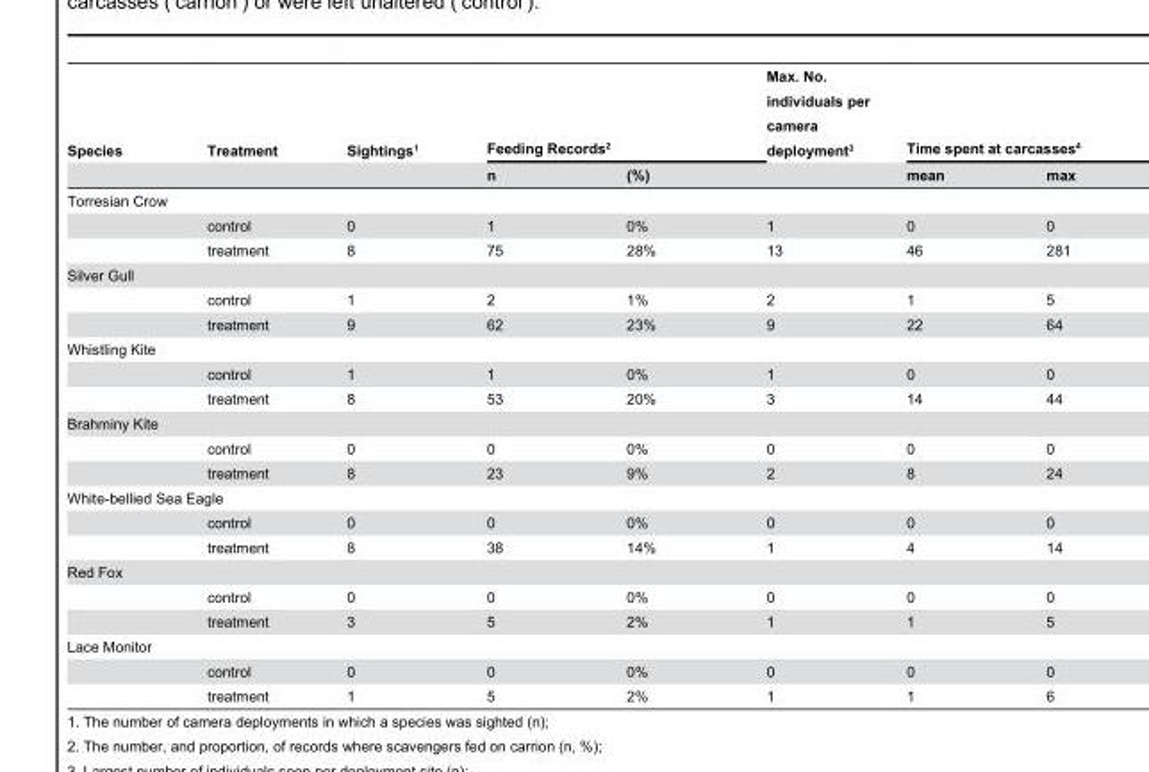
<table><thead><tr><td rowspan="2">Species</td><td rowspan="2">Treatment</td><td rowspan="2">Sightings<sup>1</sup></td><td colspan="2">Feeding Records<sup>2</sup></td><td rowspan="2">Max. No. individuals per camera deployment<sup>3</sup></td><td colspan="2">Time spent at carcasses<sup>4</sup></td></tr><tr><td>n</td><td>(%)</td><td>mean</td><td>max</td></tr></thead><tbody><tr><td colspan="8">Torresian Crow</td></tr><tr><td></td><td>control</td><td>0</td><td>1</td><td>0%</td><td>1</td><td>0</td><td>0</td></tr><tr><td></td><td>treatment</td><td>8</td><td>75</td><td>28%</td><td>13</td><td>46</td><td>281</td></tr><tr><td colspan="8">Silver Gull</td></tr><tr><td></td><td>control</td><td>1</td><td>2</td><td>1%</td><td>2</td><td>1</td><td>5</td></tr><tr><td></td><td>treatment</td><td>9</td><td>62</td><td>23%</td><td>9</td><td>22</td><td>64</td></tr><tr><td colspan="8">Whistling Kite</td></tr><tr><td></td><td>control</td><td>1</td><td>1</td><td>0%</td><td>1</td><td>0</td><td>0</td></tr><tr><td></td><td>treatment</td><td>8</td><td>53</td><td>20%</td><td>3</td><td>14</td><td>44</td></tr><tr><td colspan="8">Brahminy Kite</td></tr><tr><td></td><td>control</td><td>0</td><td>0</td><td>0%</td><td>0</td><td>0</td><td>0</td></tr><tr><td></td><td>treatment</td><td>8</td><td>23</td><td>9%</td><td>2</td><td>8</td><td>24</td></tr><tr><td colspan="8">White-bellied Sea Eagle</td></tr><tr><td></td><td>control</td><td>0</td><td>0</td><td>0%</td><td>0</td><td>0</td><td>0</td></tr><tr><td></td><td>treatment</td><td>8</td><td>38</td><td>14%</td><td>1</td><td>4</td><td>14</td></tr><tr><td colspan="8">Red Fox</td></tr><tr><td></td><td>control</td><td>0</td><td>0</td><td>0%</td><td>0</td><td>0</td><td>0</td></tr><tr><td></td><td>treatment</td><td>3</td><td>5</td><td>2%</td><td>1</td><td>1</td><td>5</td></tr><tr><td colspan="8">Lace Monitor</td></tr><tr><td></td><td>control</td><td>0</td><td>0</td><td>0%</td><td>0</td><td>0</td><td>0</td></tr><tr><td></td><td>treatment</td><td>1</td><td>5</td><td>2%</td><td>1</td><td>1</td><td>6</td></tr></tbody></table>